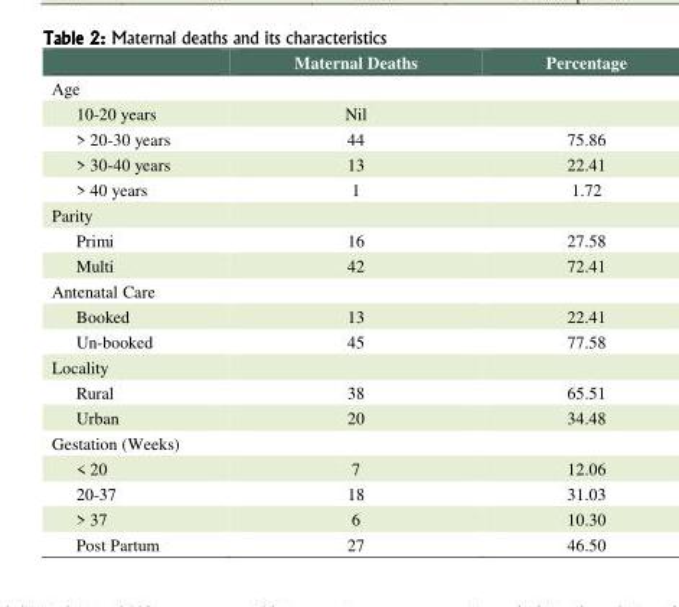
<table><thead><tr><td></td><td>Maternal Deaths</td><td>Percentage</td></tr></thead><tbody><tr><td colspan="3">Age</td></tr><tr><td>10-20 years</td><td>Nil</td><td></td></tr><tr><td>&gt; 20-30 years</td><td>44</td><td>75.86</td></tr><tr><td>&gt; 30-40 years</td><td>13</td><td>22.41</td></tr><tr><td>&gt; 40 years</td><td>1</td><td>1.72</td></tr><tr><td colspan="3">Parity</td></tr><tr><td>Primi</td><td>16</td><td>27.58</td></tr><tr><td>Multi</td><td>42</td><td>72.41</td></tr><tr><td colspan="3">Antenatal Care</td></tr><tr><td>Booked</td><td>13</td><td>22.41</td></tr><tr><td>Un-booked</td><td>45</td><td>77.58</td></tr><tr><td colspan="3">Locality</td></tr><tr><td>Rural</td><td>38</td><td>65.51</td></tr><tr><td>Urban</td><td>20</td><td>34.48</td></tr><tr><td colspan="3">Gestation (Weeks)</td></tr><tr><td>&lt; 20</td><td>7</td><td>12.06</td></tr><tr><td>20-37</td><td>18</td><td>31.03</td></tr><tr><td>&gt; 37</td><td>6</td><td>10.30</td></tr><tr><td>Post Partum</td><td>27</td><td>46.50</td></tr></tbody></table>